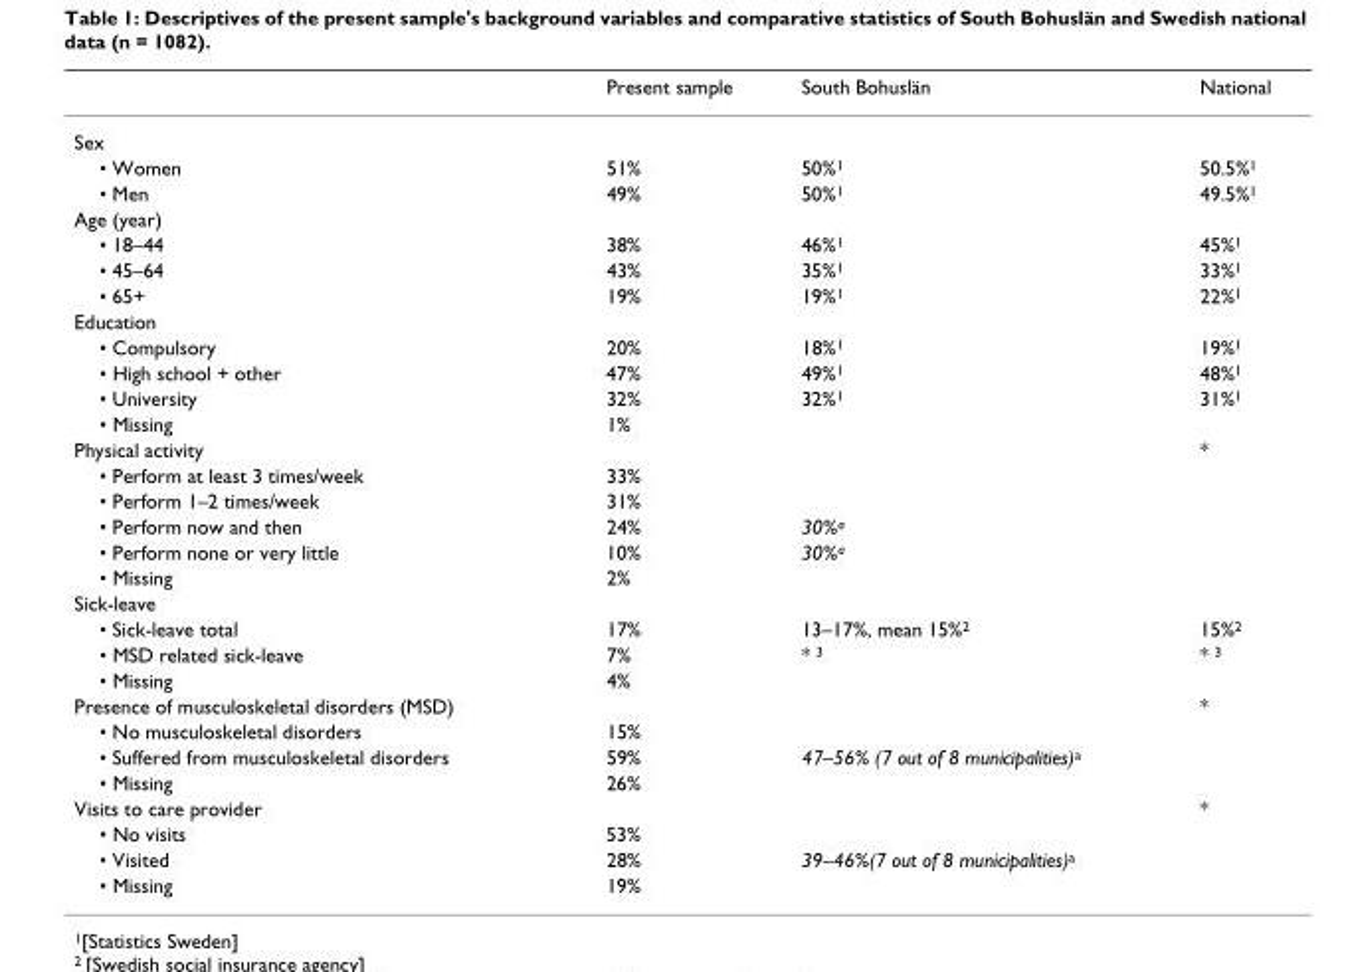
<table><thead><tr><td></td><td>Present sample</td><td>South Bohuslän</td><td>National</td></tr></thead><tbody><tr><td colspan="4">Sex</td></tr><tr><td>• Women</td><td>51%</td><td>50%<sup>1</sup></td><td>50.5%<sup>1</sup></td></tr><tr><td>• Men</td><td>49%</td><td>50%<sup>1</sup></td><td>49.5%<sup>1</sup></td></tr><tr><td colspan="4">Age (year)</td></tr><tr><td>• 18–44</td><td>38%</td><td>46%<sup>1</sup></td><td>45%<sup>1</sup></td></tr><tr><td>• 45–64</td><td>43%</td><td>35%<sup>1</sup></td><td>33%<sup>1</sup></td></tr><tr><td>• 65+</td><td>19%</td><td>19%<sup>1</sup></td><td>22%<sup>1</sup></td></tr><tr><td colspan="4">Education</td></tr><tr><td>• Compulsory</td><td>20%</td><td>18%<sup>1</sup></td><td>19%<sup>1</sup></td></tr><tr><td>• High school + other</td><td>47%</td><td>49%<sup>1</sup></td><td>48%<sup>1</sup></td></tr><tr><td>• University</td><td>32%</td><td>32%<sup>1</sup></td><td>31%<sup>1</sup></td></tr><tr><td>• Missing</td><td>1%</td><td></td><td></td></tr><tr><td>Physical activity</td><td></td><td></td><td>*</td></tr><tr><td>• Perform at least 3 times/week</td><td>33%</td><td></td><td></td></tr><tr><td>• Perform 1–2 times/week</td><td>31%</td><td></td><td></td></tr><tr><td>• Perform now and then</td><td>24%</td><td>30%<sup>a</sup></td><td></td></tr><tr><td>• Perform none or very little</td><td>10%</td><td>30%<sup>a</sup></td><td></td></tr><tr><td>• Missing</td><td>2%</td><td></td><td></td></tr><tr><td colspan="4">Sick-leave</td></tr><tr><td>• Sick-leave total</td><td>17%</td><td>13–17%, mean 15%<sup>2</sup></td><td>15%<sup>2</sup></td></tr><tr><td>• MSD related sick-leave</td><td>7%</td><td>* <sup>3</sup></td><td>* <sup>3</sup></td></tr><tr><td>• Missing</td><td>4%</td><td></td><td></td></tr><tr><td>Presence of musculoskeletal disorders (MSD)</td><td></td><td></td><td>*</td></tr><tr><td>• No musculoskeletal disorders</td><td>15%</td><td></td><td></td></tr><tr><td>• Suffered from musculoskeletal disorders</td><td>59%</td><td>47–56% (7 out of 8 municipalities)<sup>a</sup></td><td></td></tr><tr><td>• Missing</td><td>26%</td><td></td><td></td></tr><tr><td>Visits to care provider</td><td></td><td></td><td>*</td></tr><tr><td>• No visits</td><td>53%</td><td></td><td></td></tr><tr><td>• Visited</td><td>28%</td><td>39–46%(7 out of 8 municipalities)<sup>a</sup></td><td></td></tr><tr><td>• Missing</td><td>19%</td><td></td><td></td></tr></tbody></table>